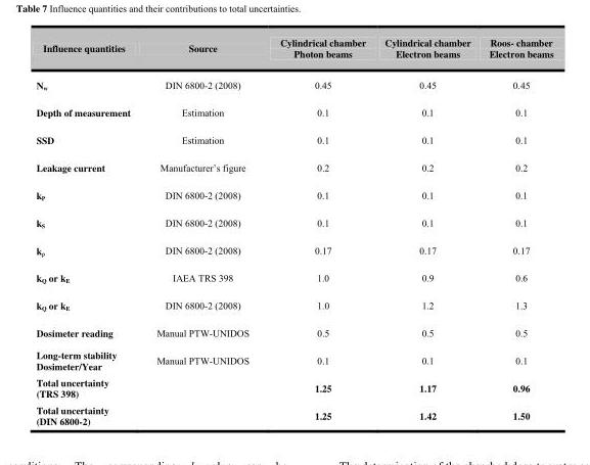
<table><thead><tr><td>Influence quantities</td><td>Source</td><td>Cylindrical chamber Photon beams</td><td>Cylindrical chamber Electron beams</td><td>Roos- chamber Electron beams</td></tr></thead><tbody><tr><td>N<sub>w</sub></td><td>DIN 6800-2 (2008)</td><td>0.45</td><td>0.45</td><td>0.45</td></tr><tr><td>Depth of measurement</td><td>Estimation</td><td>0.1</td><td>0.1</td><td>0.1</td></tr><tr><td>SSD</td><td>Estimation</td><td>0.1</td><td>0.1</td><td>0.1</td></tr><tr><td>Leakage current</td><td>Manufacturer’s figure</td><td>0.2</td><td>0.2</td><td>0.2</td></tr><tr><td>k<sub>P</sub></td><td>DIN 6800-2 (2008)</td><td>0.1</td><td>0.1</td><td>0.1</td></tr><tr><td>k<sub>S</sub></td><td>DIN 6800-2 (2008)</td><td>0.1</td><td>0.1</td><td>0.1</td></tr><tr><td>k<sub>ρ</sub></td><td>DIN 6800-2 (2008)</td><td>0.17</td><td>0.17</td><td>0.17</td></tr><tr><td>k<sub>Q</sub> or k<sub>E</sub></td><td>IAEA TRS 398</td><td>1.0</td><td>0.9</td><td>0.6</td></tr><tr><td>k<sub>Q</sub> or k<sub>E</sub></td><td>DIN 6800-2 (2008)</td><td>1.0</td><td>1.2</td><td>1.3</td></tr><tr><td>Dosimeter reading</td><td>Manual PTW-UNIDOS</td><td>0.5</td><td>0.5</td><td>0.5</td></tr><tr><td>Long-term stability Dosimeter/Year</td><td>Manual PTW-UNIDOS</td><td>0.1</td><td>0.1</td><td>0.1</td></tr><tr><td>Total uncertainty (TRS 398)</td><td></td><td>1.25</td><td>1.17</td><td>0.96</td></tr><tr><td>Total uncertainty (DIN 6800-2)</td><td></td><td>1.25</td><td>1.42</td><td>1.50</td></tr></tbody></table>